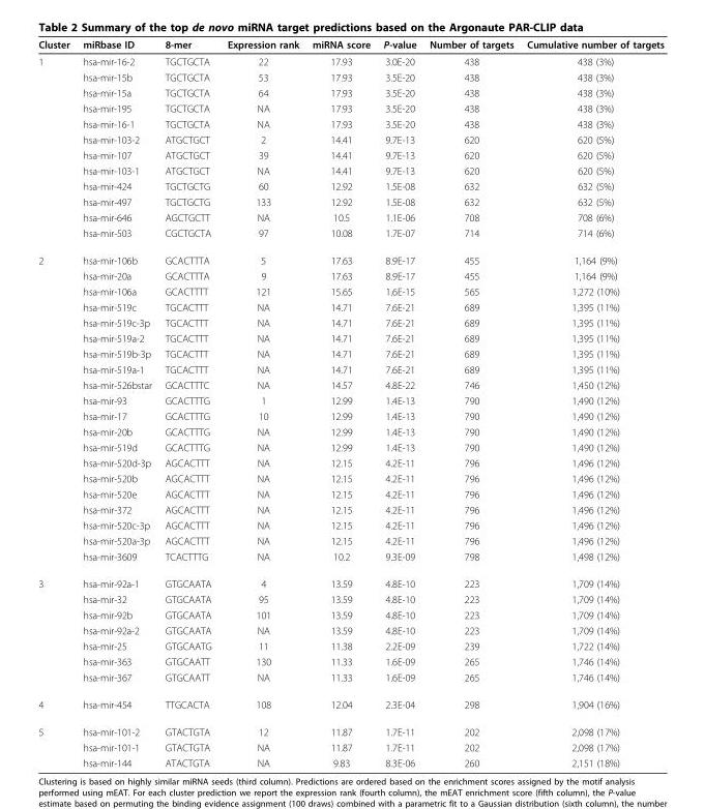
<table><thead><tr><td>Cluster</td><td>miRbase ID</td><td>8-mer</td><td>Expression rank</td><td>miRNA score</td><td>P-value</td><td>Number of targets</td><td>Cumulative number of targets</td></tr></thead><tbody><tr><td rowspan="12">1</td><td>hsa-mir-16-2</td><td>TGCTGCTA</td><td>22</td><td>17.93</td><td>3.0E-20</td><td>438</td><td>438 (3%)</td></tr><tr><td>hsa-mir-15b</td><td>TGCTGCTA</td><td>53</td><td>17.93</td><td>3.5E-20</td><td>438</td><td>438 (3%)</td></tr><tr><td>hsa-mir-15a</td><td>TGCTGCTA</td><td>64</td><td>17.93</td><td>3.5E-20</td><td>438</td><td>438 (3%)</td></tr><tr><td>hsa-mir-195</td><td>TGCTGCTA</td><td>NA</td><td>17.93</td><td>3.5E-20</td><td>438</td><td>438 (3%)</td></tr><tr><td>hsa-mir-16-1</td><td>TGCTGCTA</td><td>NA</td><td>17.93</td><td>3.5E-20</td><td>438</td><td>438 (3%)</td></tr><tr><td>hsa-mir-103-2</td><td>ATGCTGCT</td><td>2</td><td>14.41</td><td>9.7E-13</td><td>620</td><td>620 (5%)</td></tr><tr><td>hsa-mir-107</td><td>ATGCTGCT</td><td>39</td><td>14.41</td><td>9.7E-13</td><td>620</td><td>620 (5%)</td></tr><tr><td>hsa-mir-103-1</td><td>ATGCTGCT</td><td>NA</td><td>14.41</td><td>9.7E-13</td><td>620</td><td>620 (5%)</td></tr><tr><td>hsa-mir-424</td><td>TGCTGCTG</td><td>60</td><td>12.92</td><td>1.5E-08</td><td>632</td><td>632 (5%)</td></tr><tr><td>hsa-mir-497</td><td>TGCTGCTG</td><td>133</td><td>12.92</td><td>1.5E-08</td><td>632</td><td>632 (5%)</td></tr><tr><td>hsa-mir-646</td><td>AGCTGCTT</td><td>NA</td><td>10.5</td><td>1.1E-06</td><td>708</td><td>708 (6%)</td></tr><tr><td>hsa-mir-503</td><td>CGCTGCTA</td><td>97</td><td>10.08</td><td>1.7E-07</td><td>714</td><td>714 (6%)</td></tr><tr><td rowspan="20">2</td><td>hsa-mir-106b</td><td>GCACTTTA</td><td>5</td><td>17.63</td><td>8.9E-17</td><td>455</td><td>1,164 (9%)</td></tr><tr><td>hsa-mir-20a</td><td>GCACTTTA</td><td>9</td><td>17.63</td><td>8.9E-17</td><td>455</td><td>1,164 (9%)</td></tr><tr><td>hsa-mir-106a</td><td>GCACTTTT</td><td>121</td><td>15.65</td><td>1.6E-15</td><td>565</td><td>1,272 (10%)</td></tr><tr><td>hsa-mir-519c</td><td>TGCACTTT</td><td>NA</td><td>14.71</td><td>7.6E-21</td><td>689</td><td>1,395 (11%)</td></tr><tr><td>hsa-mir-519c-3p</td><td>TGCACTTT</td><td>NA</td><td>14.71</td><td>7.6E-21</td><td>689</td><td>1,395 (11%)</td></tr><tr><td>hsa-mir-519a-2</td><td>TGCACTTT</td><td>NA</td><td>14.71</td><td>7.6E-21</td><td>689</td><td>1,395 (11%)</td></tr><tr><td>hsa-mir-519b-3p</td><td>TGCACTTT</td><td>NA</td><td>14.71</td><td>7.6E-21</td><td>689</td><td>1,395 (11%)</td></tr><tr><td>hsa-mir-519a-1</td><td>TGCACTTT</td><td>NA</td><td>14.71</td><td>7.6E-21</td><td>689</td><td>1,395 (11%)</td></tr><tr><td>hsa-mir-526bstar</td><td>GCACTTTC</td><td>NA</td><td>14.57</td><td>4.8E-22</td><td>746</td><td>1,450 (12%)</td></tr><tr><td>hsa-mir-93</td><td>GCACTTTG</td><td>1</td><td>12.99</td><td>1.4E-13</td><td>790</td><td>1,490 (12%)</td></tr><tr><td>hsa-mir-17</td><td>GCACTTTG</td><td>10</td><td>12.99</td><td>1.4E-13</td><td>790</td><td>1,490 (12%)</td></tr><tr><td>hsa-mir-20b</td><td>GCACTTTG</td><td>NA</td><td>12.99</td><td>1.4E-13</td><td>790</td><td>1,490 (12%)</td></tr><tr><td>hsa-mir-519d</td><td>GCACTTTG</td><td>NA</td><td>12.99</td><td>1.4E-13</td><td>790</td><td>1,490 (12%)</td></tr><tr><td>hsa-mir-520d-3p</td><td>AGCACTTT</td><td>NA</td><td>12.15</td><td>4.2E-11</td><td>796</td><td>1,496 (12%)</td></tr><tr><td>hsa-mir-520b</td><td>AGCACTTT</td><td>NA</td><td>12.15</td><td>4.2E-11</td><td>796</td><td>1,496 (12%)</td></tr><tr><td>hsa-mir-520e</td><td>AGCACTTT</td><td>NA</td><td>12.15</td><td>4.2E-11</td><td>796</td><td>1,496 (12%)</td></tr><tr><td>hsa-mir-372</td><td>AGCACTTT</td><td>NA</td><td>12.15</td><td>4.2E-11</td><td>796</td><td>1,496 (12%)</td></tr><tr><td>hsa-mir-520c-3p</td><td>AGCACTTT</td><td>NA</td><td>12.15</td><td>4.2E-11</td><td>796</td><td>1,496 (12%)</td></tr><tr><td>hsa-mir-520a-3p</td><td>AGCACTTT</td><td>NA</td><td>12.15</td><td>4.2E-11</td><td>796</td><td>1,496 (12%)</td></tr><tr><td>hsa-mir-3609</td><td>TCACTTTG</td><td>NA</td><td>10.2</td><td>9.3E-09</td><td>798</td><td>1,498 (12%)</td></tr><tr><td rowspan="7">3</td><td>hsa-mir-92a-1</td><td>GTGCAATA</td><td>4</td><td>13.59</td><td>4.8E-10</td><td>223</td><td>1,709 (14%)</td></tr><tr><td>hsa-mir-32</td><td>GTGCAATA</td><td>95</td><td>13.59</td><td>4.8E-10</td><td>223</td><td>1,709 (14%)</td></tr><tr><td>hsa-mir-92b</td><td>GTGCAATA</td><td>101</td><td>13.59</td><td>4.8E-10</td><td>223</td><td>1,709 (14%)</td></tr><tr><td>hsa-mir-92a-2</td><td>GTGCAATA</td><td>NA</td><td>13.59</td><td>4.8E-10</td><td>223</td><td>1,709 (14%)</td></tr><tr><td>hsa-mir-25</td><td>GTGCAATG</td><td>11</td><td>11.38</td><td>2.2E-09</td><td>239</td><td>1,722 (14%)</td></tr><tr><td>hsa-mir-363</td><td>GTGCAATT</td><td>130</td><td>11.33</td><td>1.6E-09</td><td>265</td><td>1,746 (14%)</td></tr><tr><td>hsa-mir-367</td><td>GTGCAATT</td><td>NA</td><td>11.33</td><td>1.6E-09</td><td>265</td><td>1,746 (14%)</td></tr><tr><td>4</td><td>hsa-mir-454</td><td>TTGCACTA</td><td>108</td><td>12.04</td><td>2.3E-04</td><td>298</td><td>1,904 (16%)</td></tr><tr><td rowspan="3">5</td><td>hsa-mir-101-2</td><td>GTACTGTA</td><td>12</td><td>11.87</td><td>1.7E-11</td><td>202</td><td>2,098 (17%)</td></tr><tr><td>hsa-mir-101-1</td><td>GTACTGTA</td><td>NA</td><td>11.87</td><td>1.7E-11</td><td>202</td><td>2,098 (17%)</td></tr><tr><td>hsa-mir-144</td><td>ATACTGTA</td><td>NA</td><td>9.83</td><td>8.3E-06</td><td>260</td><td>2,151 (18%)</td></tr></tbody></table>